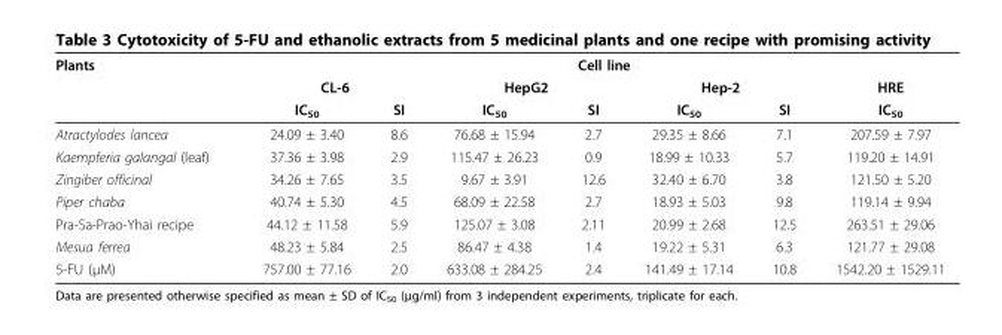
<table><thead><tr><td rowspan="3">Plants</td><td colspan="7">Cell line</td></tr><tr><td colspan="2">CL-6</td><td colspan="2">HepG2</td><td colspan="2">Hep-2</td><td rowspan="2">HRE IC<sub>50</sub></td></tr><tr><td>IC<sub>50</sub></td><td>SI</td><td>IC<sub>50</sub></td><td>SI</td><td>IC<sub>50</sub></td><td>SI</td></tr></thead><tbody><tr><td>Atractylodes lancea</td><td>24.09 ± 3.40</td><td>8.6</td><td>76.68 ± 15.94</td><td>2.7</td><td>29.35 ± 8.66</td><td>7.1</td><td>207.59 ± 7.97</td></tr><tr><td>Kaempferia galangal (leaf)</td><td>37.36 ± 3.98</td><td>2.9</td><td>115.47 ± 26.23</td><td>0.9</td><td>18.99 ± 10.33</td><td>5.7</td><td>119.20 ± 14.91</td></tr><tr><td>Zingiber officinal</td><td>34.26 ± 7.65</td><td>3.5</td><td>9.67 ± 3.91</td><td>12.6</td><td>32.40 ± 6.70</td><td>3.8</td><td>121.50 ± 5.20</td></tr><tr><td>Piper chaba</td><td>40.74 ± 5.30</td><td>4.5</td><td>68.09 ± 22.58</td><td>2.7</td><td>18.93 ± 5.03</td><td>9.8</td><td>119.14 ± 9.94</td></tr><tr><td>Pra-Sa-Prao-Yhai recipe</td><td>44.12 ± 11.58</td><td>5.9</td><td>125.07 ± 3.08</td><td>2.11</td><td>20.99 ± 2.68</td><td>12.5</td><td>263.51 ± 29.06</td></tr><tr><td>Mesua ferrea</td><td>48.23 ± 5.84</td><td>2.5</td><td>86.47 ± 4.38</td><td>1.4</td><td>19.22 ± 5.31</td><td>6.3</td><td>121.77 ± 29.08</td></tr><tr><td>5-FU (μM)</td><td>757.00 ± 77.16</td><td>2.0</td><td>633.08 ± 284.25</td><td>2.4</td><td>141.49 ± 17.14</td><td>10.8</td><td>1542.20 ± 1529.11</td></tr></tbody></table>